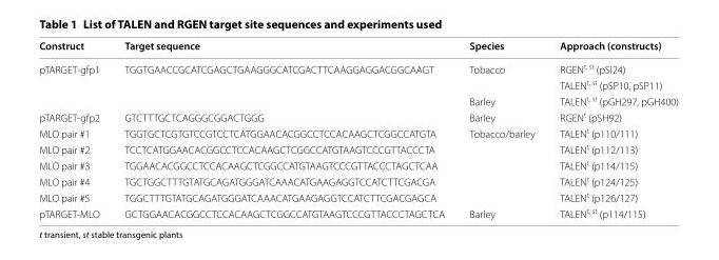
<table><thead><tr><td>Construct</td><td>Target sequence</td><td>Species</td><td>Approach (constructs)</td></tr></thead><tbody><tr><td rowspan="3">pTARGET-gfp1</td><td rowspan="3">TGGTGAACCGCATCGAGCTGAAGGGCATCGACTTCAAGGAGGACGGCAAGT</td><td rowspan="2">Tobacco</td><td>RGEN<sup>t, st</sup> (pSI24)</td></tr><tr><td>TALEN<sup>t, st</sup> (pSP10, pSP11)</td></tr><tr><td>Barley</td><td>TALEN<sup>t, st</sup> (pGH297, pGH400)</td></tr><tr><td>pTARGET-gfp2</td><td>GTCTTTGCTCAGGGCGGACTGGG</td><td>Barley</td><td>RGEN<sup>t</sup> (pSH92)</td></tr><tr><td>MLO pair #1</td><td>TGGTGCTCGTGTCCGTCCTCATGGAACACGGCCTCCACAAGCTCGGCCATGTA</td><td rowspan="5">Tobacco/barley</td><td>TALEN<sup>t</sup> (p110/111)</td></tr><tr><td>MLO pair #2</td><td>TCCTCATGGAACACGGCCTCCACAAGCTCGGCCATGTAAGTCCCGTTACCCTA</td><td>TALEN<sup>t</sup> (p112/113)</td></tr><tr><td>MLO pair #3</td><td>TGGAACACGGCCTCCACAAGCTCGGCCATGTAAGTCCCGTTACCCTAGCTCAA</td><td>TALEN<sup>t</sup> (p114/115)</td></tr><tr><td>MLO pair #4</td><td>TGCTGGCTTTGTATGCAGATGGGATCAAACATGAAGAGGTCCATCTTCGACGA</td><td>TALEN<sup>t</sup> (p124/125)</td></tr><tr><td>MLO pair #5</td><td>TGGCTTTGTATGCAGATGGGATCAAACATGAAGAGGTCCATCTTCGACGAGCA</td><td>TALEN<sup>t</sup> (p126/127)</td></tr><tr><td>pTARGET-MLO</td><td>GCTGGAACACGGCCTCCACAAGCTCGGCCATGTAAGTCCCGTTACCCTAGCTCA</td><td>Barley</td><td>TALEN<sup>t, st</sup> (p114/115)</td></tr></tbody></table>